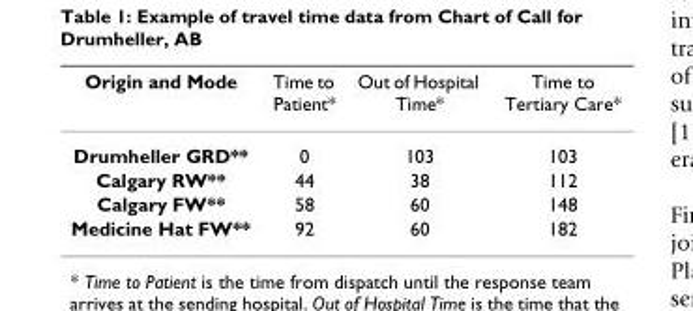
<table><thead><tr><td>Origin and Mode</td><td>Time to Patient*</td><td>Out of Hospital Time*</td><td>Time to Tertiary Care*</td></tr></thead><tbody><tr><td>Drumheller GRD**</td><td>0</td><td>103</td><td>103</td></tr><tr><td>Calgary RW**</td><td>44</td><td>38</td><td>112</td></tr><tr><td>Calgary FW**</td><td>58</td><td>60</td><td>148</td></tr><tr><td>Medicine Hat FW**</td><td>92</td><td>60</td><td>182</td></tr></tbody></table>